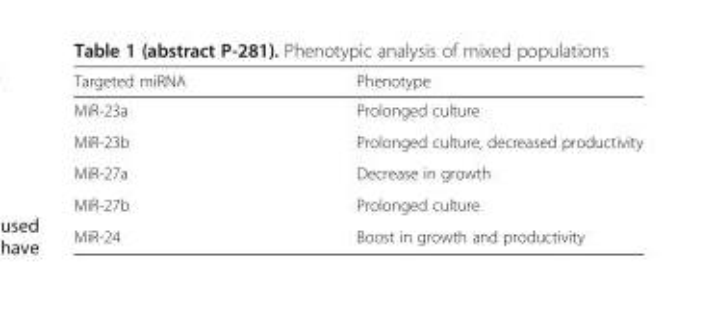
<table><thead><tr><td>Targeted miRNA</td><td>Phenotype</td></tr></thead><tbody><tr><td>MiR-23a</td><td>Prolonged culture</td></tr><tr><td>MiR-23b</td><td>Prolonged culture, decreased productivity</td></tr><tr><td>MiR-27a</td><td>Decrease in growth</td></tr><tr><td>MiR-27b</td><td>Prolonged culture</td></tr><tr><td>MiR-24</td><td>Boost in growth and productivity</td></tr></tbody></table>